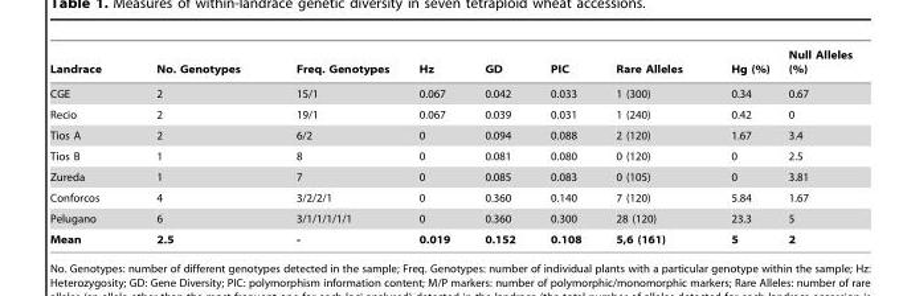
<table><thead><tr><td>Landrace</td><td>No. Genotypes</td><td>Freq. Genotypes</td><td>Hz</td><td>GD</td><td>PIC</td><td>Rare Alleles</td><td>Hg (%)</td><td>Null Alleles (%)</td></tr></thead><tbody><tr><td>CGE</td><td>2</td><td>15/1</td><td>0.067</td><td>0.042</td><td>0.033</td><td>1 (300)</td><td>0.34</td><td>0.67</td></tr><tr><td>Recio</td><td>2</td><td>19/1</td><td>0.067</td><td>0.039</td><td>0.031</td><td>1 (240)</td><td>0.42</td><td>0</td></tr><tr><td>Tios A</td><td>2</td><td>6/2</td><td>0</td><td>0.094</td><td>0.088</td><td>2 (120)</td><td>1.67</td><td>3.4</td></tr><tr><td>Tios B</td><td>1</td><td>8</td><td>0</td><td>0.081</td><td>0.080</td><td>0 (120)</td><td>0</td><td>2.5</td></tr><tr><td>Zureda</td><td>1</td><td>7</td><td>0</td><td>0.085</td><td>0.083</td><td>0 (105)</td><td>0</td><td>3.81</td></tr><tr><td>Conforcos</td><td>4</td><td>3/2/2/1</td><td>0</td><td>0.360</td><td>0.140</td><td>7 (120)</td><td>5.84</td><td>1.67</td></tr><tr><td>Pelugano</td><td>6</td><td>3/1/1/1/1/1</td><td>0</td><td>0.360</td><td>0.300</td><td>28 (120)</td><td>23.3</td><td>5</td></tr><tr><td>Mean</td><td>2.5</td><td>-</td><td>0.019</td><td>0.152</td><td>0.108</td><td>5,6 (161)</td><td>5</td><td>2</td></tr></tbody></table>